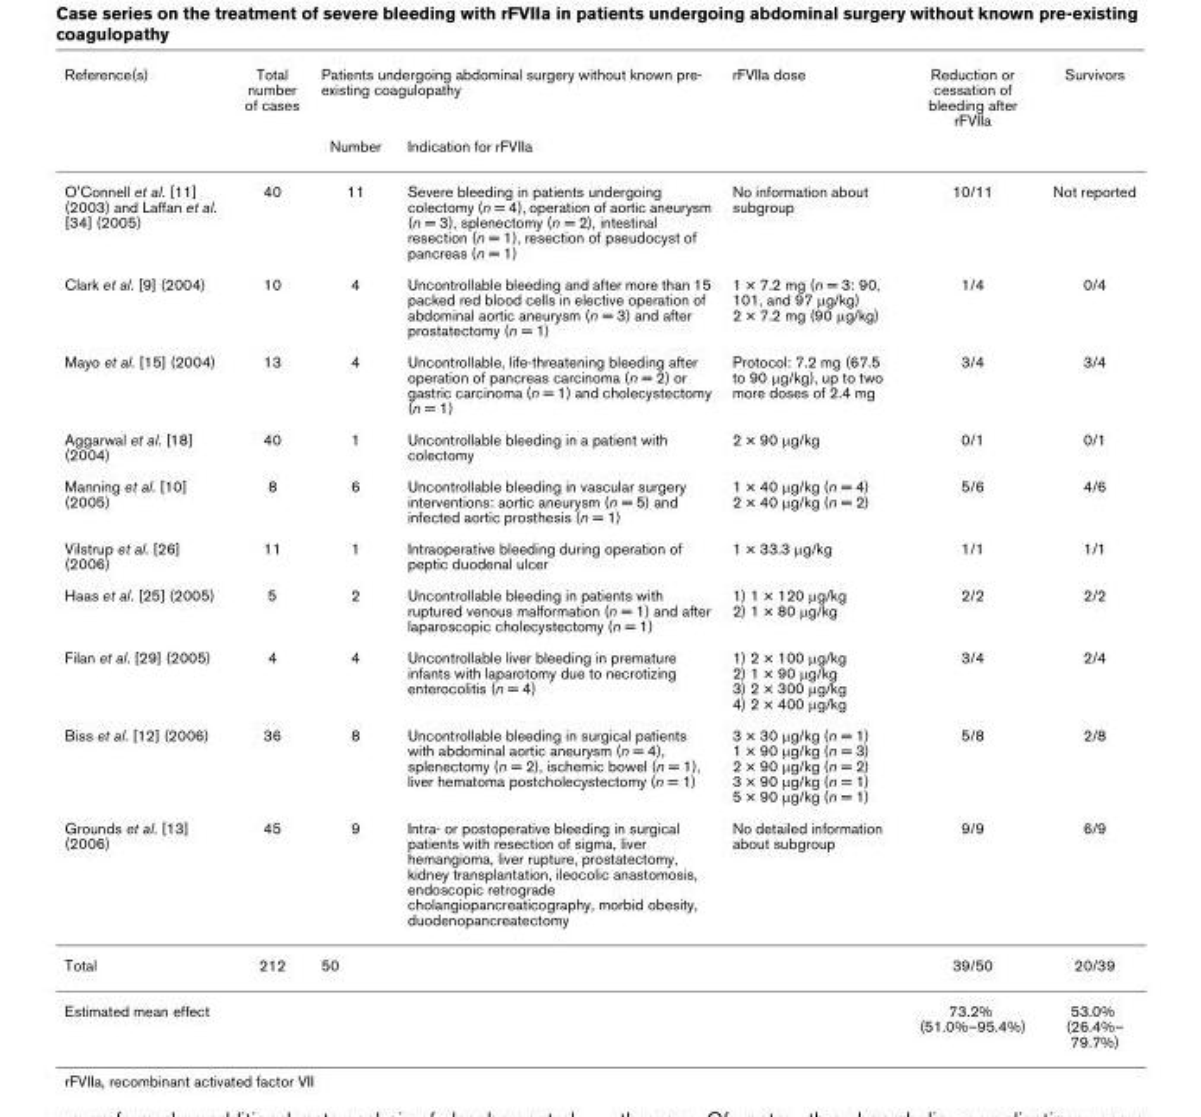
<table><thead><tr><td rowspan="2">Reference(s)</td><td rowspan="2">Total number of cases</td><td colspan="2">Patients undergoing abdominal surgery without known pre- existing coagulopathy</td><td rowspan="2">rFVIIa dose</td><td rowspan="2">Reduction or cessation of bleeding after rFVIIa</td><td rowspan="2">Survivors</td></tr><tr><td>Number</td><td>Indication for rFVIIa</td></tr></thead><tbody><tr><td>O&#x27;Connell et al. [11] (2003) and Laffan et al. [34] (2005)</td><td>40</td><td>11</td><td>Severe bleeding in patients undergoing colectomy (n = 4), operation of aortic aneurysm (n = 3), splenectomy (n = 2), intestinal resection (n = 1), resection of pseudocyst of pancreas (n = 1)</td><td>No information about subgroup</td><td>10/11</td><td>Not reported</td></tr><tr><td>Clark et al. [9] (2004)</td><td>10</td><td>4</td><td>Uncontrollable bleeding and after more than 15 packed red blood cells in elective operation of abdominal aortic aneurysm (n = 3) and after prostatectomy (n = 1)</td><td>1 × 7.2 mg (n = 3: 90, 101, and 97 μg/kg) 2 × 7.2 mg (90 μg/kg)</td><td>1/4</td><td>0/4</td></tr><tr><td>Mayo et al. [15] (2004)</td><td>13</td><td>4</td><td>Uncontrollable, life-threatening bleeding after operation of pancreas carcinoma (n = 2) or gastric carcinoma (n = 1) and cholecystectomy (n = 1)</td><td>Protocol: 7.2 mg (67.5 to 90 μg/kg), up to two more doses of 2.4 mg</td><td>3/4</td><td>3/4</td></tr><tr><td>Aggarwal et al. [18] (2004)</td><td>40</td><td>1</td><td>Uncontrollable bleeding in a patient with colectomy</td><td>2 × 90 μg/kg</td><td>0/1</td><td>0/1</td></tr><tr><td>Manning et al. [10] (2005)</td><td>8</td><td>6</td><td>Uncontrollable bleeding in vascular surgery interventions: aortic aneurysm (n = 5) and infected aortic prosthesis (n = 1)</td><td>1 × 40 μg/kg (n = 4) 2 × 40 μg/kg (n = 2)</td><td>5/6</td><td>4/6</td></tr><tr><td>Vilstrup et al. [26] (2006)</td><td>11</td><td>1</td><td>Intraoperative bleeding during operation of peptic duodenal ulcer</td><td>1 × 33.3 μg/kg</td><td>1/1</td><td>1/1</td></tr><tr><td>Haas et al. [25] (2005)</td><td>5</td><td>2</td><td>Uncontrollable bleeding in patients with ruptured venous malformation (n = 1) and after laparoscopic cholecystectomy (n = 1)</td><td>1) 1 × 120 μg/kg 2) 1 × 80 μg/kg</td><td>2/2</td><td>2/2</td></tr><tr><td>Filan et al. [29] (2005)</td><td>4</td><td>4</td><td>Uncontrollable liver bleeding in premature infants with laparotomy due to necrotizing enterocolitis (n = 4)</td><td>1) 2 × 100 μg/kg 2) 1 × 90 μg/kg 3) 2 × 300 μg/kg 4) 2 × 400 μg/kg</td><td>3/4</td><td>2/4</td></tr><tr><td>Biss et al. [12] (2006)</td><td>36</td><td>8</td><td>Uncontrollable bleeding in surgical patients with abdominal aortic aneurysm (n = 4), splenectomy (n = 2), ischemic bowel (n = 1), liver hematoma postcholecystectomy (n = 1)</td><td>3 × 30 μg/kg (n = 1) 1 × 90 μg/kg (n = 3) 2 × 90 μg/kg (n = 2) 3 × 90 μg/kg (n = 1) 5 × 90 μg/kg (n = 1)</td><td>5/8</td><td>2/8</td></tr><tr><td>Grounds et al. [13] (2006)</td><td>45</td><td>9</td><td>Intra- or postoperative bleeding in surgical patients with resection of sigma, liver hemangioma, liver rupture, prostatectomy, kidney transplantation, ileocolic anastomosis, endoscopic retrograde cholangiopancreaticography, morbid obesity, duodenopancreatectomy</td><td>No detailed information about subgroup</td><td>9/9</td><td>6/9</td></tr><tr><td>Total</td><td>212</td><td>50</td><td></td><td></td><td>39/50</td><td>20/39</td></tr><tr><td>Estimated mean effect</td><td></td><td></td><td></td><td></td><td>73.2% (51.0%–95.4%)</td><td>53.0% (26.4%– 79.7%)</td></tr></tbody></table>